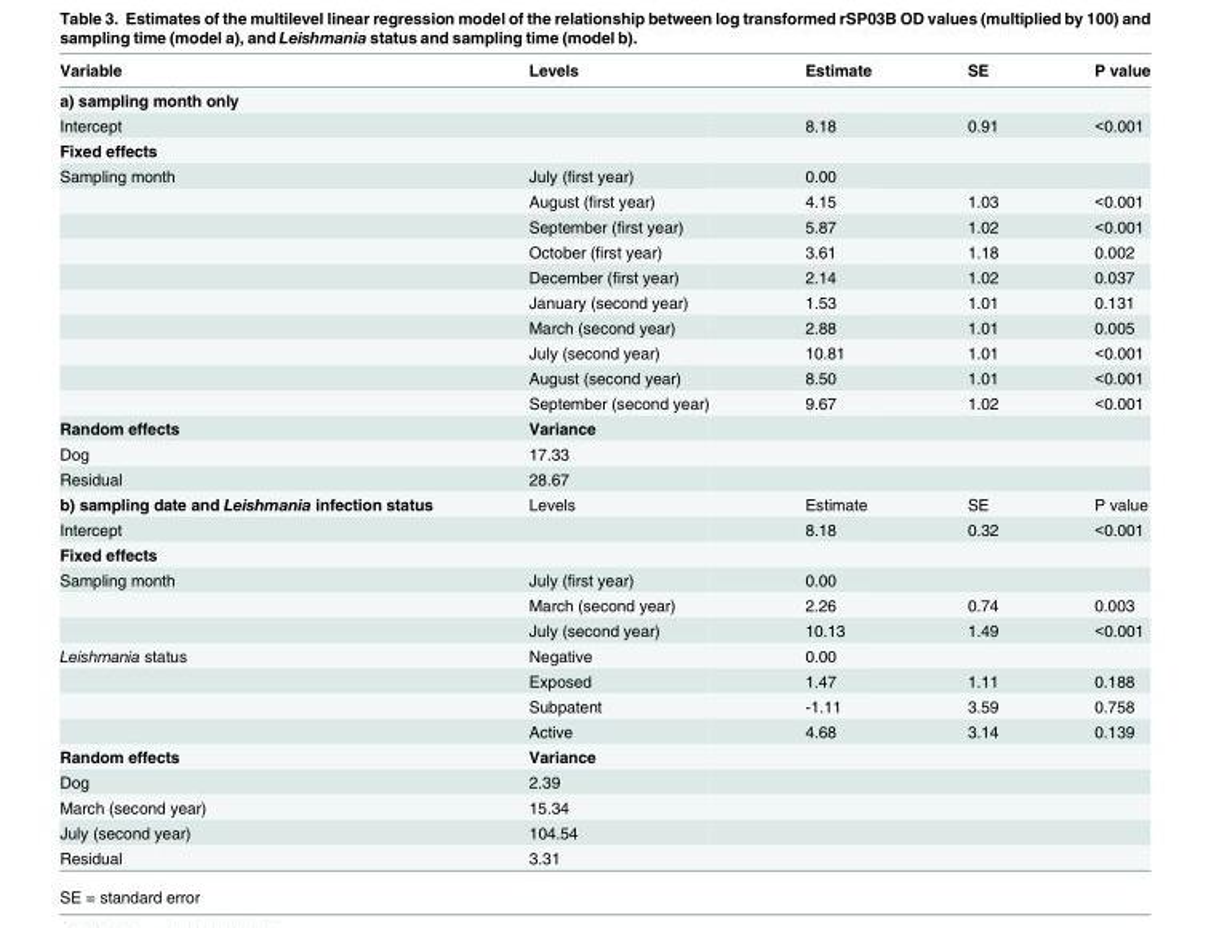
<table><thead><tr><td>Variable</td><td>Levels</td><td>Estimate</td><td>SE</td><td>P value</td></tr></thead><tbody><tr><td colspan="5">a) sampling month only</td></tr><tr><td>Intercept</td><td></td><td>8.18</td><td>0.91</td><td>&lt;0.001</td></tr><tr><td colspan="5">Fixed effects</td></tr><tr><td rowspan="10">Sampling month</td><td>July (first year)</td><td>0.00</td><td></td><td></td></tr><tr><td>August (first year)</td><td>4.15</td><td>1.03</td><td>&lt;0.001</td></tr><tr><td>September (first year)</td><td>5.87</td><td>1.02</td><td>&lt;0.001</td></tr><tr><td>October (first year)</td><td>3.61</td><td>1.18</td><td>0.002</td></tr><tr><td>December (first year)</td><td>2.14</td><td>1.02</td><td>0.037</td></tr><tr><td>January (second year)</td><td>1.53</td><td>1.01</td><td>0.131</td></tr><tr><td>March (second year)</td><td>2.88</td><td>1.01</td><td>0.005</td></tr><tr><td>July (second year)</td><td>10.81</td><td>1.01</td><td>&lt;0.001</td></tr><tr><td>August (second year)</td><td>8.50</td><td>1.01</td><td>&lt;0.001</td></tr><tr><td>September (second year)</td><td>9.67</td><td>1.02</td><td>&lt;0.001</td></tr><tr><td>Random effects</td><td>Variance</td><td></td><td></td><td></td></tr><tr><td>Dog</td><td>17.33</td><td></td><td></td><td></td></tr><tr><td>Residual</td><td>28.67</td><td></td><td></td><td></td></tr><tr><td>b) sampling date and Leishmania infection status</td><td>Levels</td><td>Estimate</td><td>SE</td><td>P value</td></tr><tr><td>Intercept</td><td></td><td>8.18</td><td>0.32</td><td>&lt;0.001</td></tr><tr><td colspan="5">Fixed effects</td></tr><tr><td rowspan="3">Sampling month</td><td>July (first year)</td><td>0.00</td><td></td><td></td></tr><tr><td>March (second year)</td><td>2.26</td><td>0.74</td><td>0.003</td></tr><tr><td>July (second year)</td><td>10.13</td><td>1.49</td><td>&lt;0.001</td></tr><tr><td rowspan="4">Leishmania status</td><td>Negative</td><td>0.00</td><td></td><td></td></tr><tr><td>Exposed</td><td>1.47</td><td>1.11</td><td>0.188</td></tr><tr><td>Subpatent</td><td>-1.11</td><td>3.59</td><td>0.758</td></tr><tr><td>Active</td><td>4.68</td><td>3.14</td><td>0.139</td></tr><tr><td>Random effects</td><td>Variance</td><td></td><td></td><td></td></tr><tr><td>Dog</td><td>2.39</td><td></td><td></td><td></td></tr><tr><td>March (second year)</td><td>15.34</td><td></td><td></td><td></td></tr><tr><td>July (second year)</td><td>104.54</td><td></td><td></td><td></td></tr><tr><td>Residual</td><td>3.31</td><td></td><td></td><td></td></tr></tbody></table>